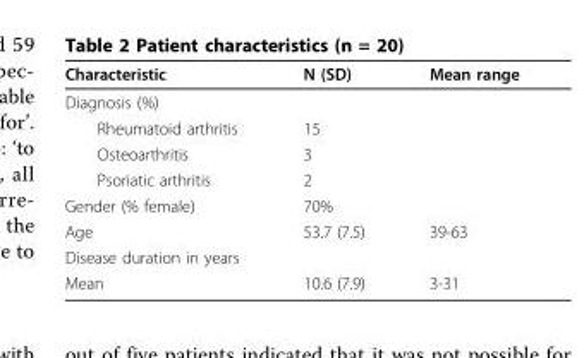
<table><thead><tr><td>Characteristic</td><td>N (SD)</td><td>Mean range</td></tr></thead><tbody><tr><td colspan="3">Diagnosis (%)</td></tr><tr><td>Rheumatoid arthritis</td><td>15</td><td></td></tr><tr><td>Osteoarthritis</td><td>3</td><td></td></tr><tr><td>Psoriatic arthritis</td><td>2</td><td></td></tr><tr><td>Gender (% female)</td><td>70%</td><td></td></tr><tr><td>Age</td><td>53.7 (7.5)</td><td>39-63</td></tr><tr><td colspan="3">Disease duration in years</td></tr><tr><td>Mean</td><td>10.6 (7.9)</td><td>3-31</td></tr></tbody></table>